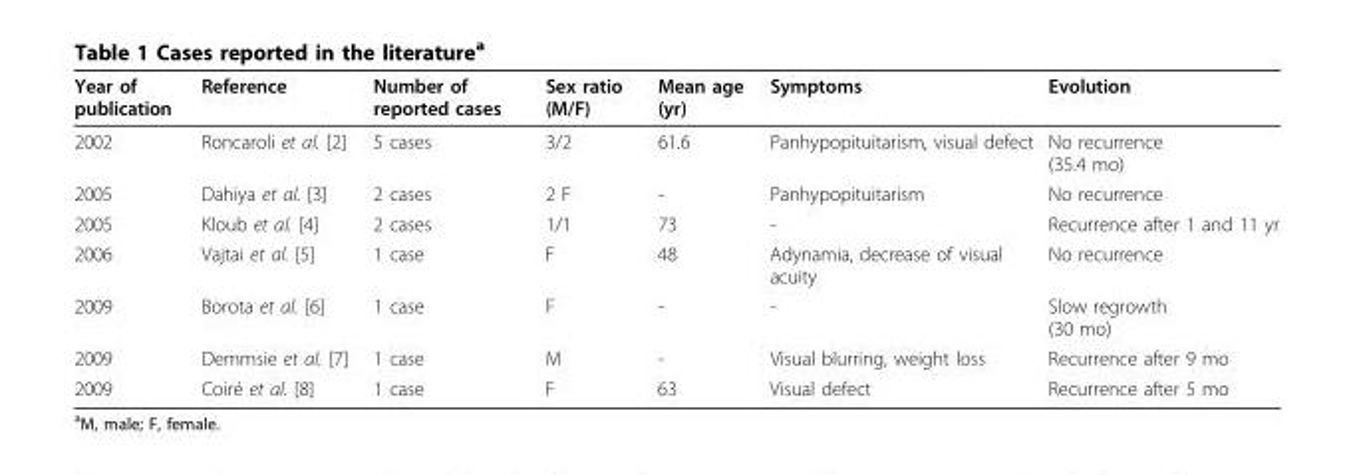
<table><thead><tr><td>Year of publication</td><td>Reference</td><td>Number of reported cases</td><td>Sex ratio (M/F)</td><td>Mean age (yr)</td><td>Symptoms</td><td>Evolution</td></tr></thead><tbody><tr><td>2002</td><td>Roncaroli et al. [2]</td><td>5 cases</td><td>3/2</td><td>61.6</td><td>Panhypopituitarism, visual defect</td><td>No recurrence (35.4 mo)</td></tr><tr><td>2005</td><td>Dahiya et al. [3]</td><td>2 cases</td><td>2 F</td><td>-</td><td>Panhypopituitarism</td><td>No recurrence</td></tr><tr><td>2005</td><td>Kloub et al. [4]</td><td>2 cases</td><td>1/1</td><td>73</td><td>-</td><td>Recurrence after 1 and 11 yr</td></tr><tr><td>2006</td><td>Vajtai et al. [5]</td><td>1 case</td><td>F</td><td>48</td><td>Adynamia, decrease of visual acuity</td><td>No recurrence</td></tr><tr><td>2009</td><td>Borota et al. [6]</td><td>1 case</td><td>F</td><td>-</td><td>-</td><td>Slow regrowth (30 mo)</td></tr><tr><td>2009</td><td>Demmsie et al. [7]</td><td>1 case</td><td>M</td><td>-</td><td>Visual blurring, weight loss</td><td>Recurrence after 9 mo</td></tr><tr><td>2009</td><td>Coiré et al. [8]</td><td>1 case</td><td>F</td><td>63</td><td>Visual defect</td><td>Recurrence after 5 mo</td></tr></tbody></table>